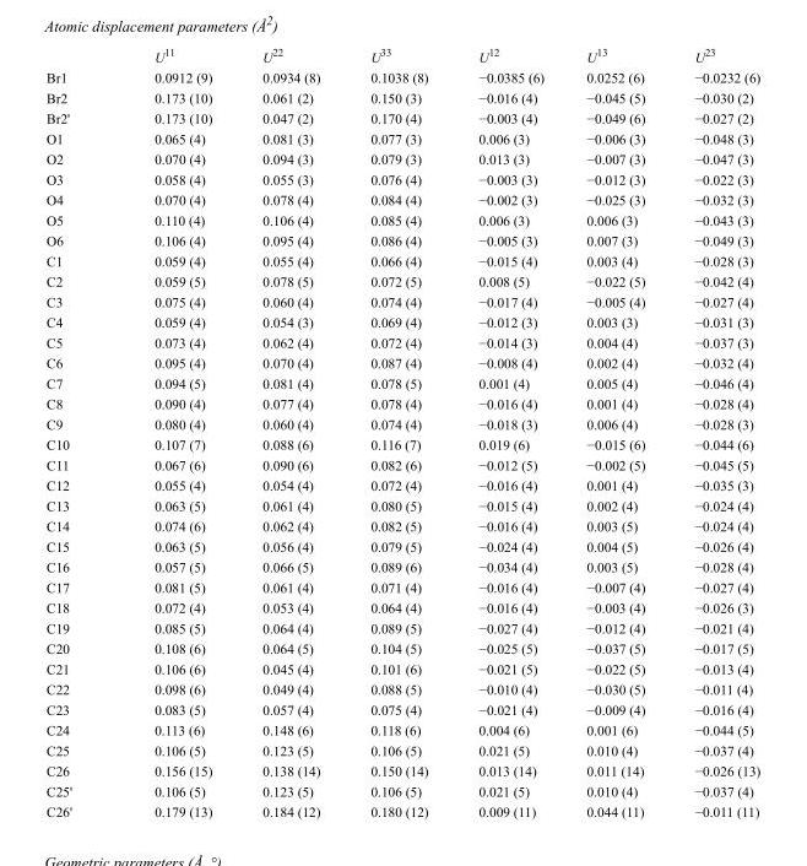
<table><thead><tr><td></td><td>U<sup>11</sup></td><td>U<sup>22</sup></td><td>U<sup>33</sup></td><td>U<sup>12</sup></td><td>U<sup>13</sup></td><td>U<sup>23</sup></td></tr></thead><tbody><tr><td>Br1</td><td>0.0912 (9)</td><td>0.0934 (8)</td><td>0.1038 (8)</td><td>−0.0385 (6)</td><td>0.0252 (6)</td><td>−0.0232 (6)</td></tr><tr><td>Br2</td><td>0.173 (10)</td><td>0.061 (2)</td><td>0.150 (3)</td><td>−0.016 (4)</td><td>−0.045 (5)</td><td>−0.030 (2)</td></tr><tr><td>Br2&#x27;</td><td>0.173 (10)</td><td>0.047 (2)</td><td>0.170 (4)</td><td>−0.003 (4)</td><td>−0.049 (6)</td><td>−0.027 (2)</td></tr><tr><td>O1</td><td>0.065 (4)</td><td>0.081 (3)</td><td>0.077 (3)</td><td>0.006 (3)</td><td>−0.006 (3)</td><td>−0.048 (3)</td></tr><tr><td>O2</td><td>0.070 (4)</td><td>0.094 (3)</td><td>0.079 (3)</td><td>0.013 (3)</td><td>−0.007 (3)</td><td>−0.047 (3)</td></tr><tr><td>O3</td><td>0.058 (4)</td><td>0.055 (3)</td><td>0.076 (4)</td><td>−0.003 (3)</td><td>−0.012 (3)</td><td>−0.022 (3)</td></tr><tr><td>O4</td><td>0.070 (4)</td><td>0.078 (4)</td><td>0.084 (4)</td><td>−0.002 (3)</td><td>−0.025 (3)</td><td>−0.032 (3)</td></tr><tr><td>O5</td><td>0.110 (4)</td><td>0.106 (4)</td><td>0.085 (4)</td><td>0.006 (3)</td><td>0.006 (3)</td><td>−0.043 (3)</td></tr><tr><td>O6</td><td>0.106 (4)</td><td>0.095 (4)</td><td>0.086 (4)</td><td>−0.005 (3)</td><td>0.007 (3)</td><td>−0.049 (3)</td></tr><tr><td>C1</td><td>0.059 (4)</td><td>0.055 (4)</td><td>0.066 (4)</td><td>−0.015 (4)</td><td>0.003 (4)</td><td>−0.028 (3)</td></tr><tr><td>C2</td><td>0.059 (5)</td><td>0.078 (5)</td><td>0.072 (5)</td><td>0.008 (5)</td><td>−0.022 (5)</td><td>−0.042 (4)</td></tr><tr><td>C3</td><td>0.075 (4)</td><td>0.060 (4)</td><td>0.074 (4)</td><td>−0.017 (4)</td><td>−0.005 (4)</td><td>−0.027 (4)</td></tr><tr><td>C4</td><td>0.059 (4)</td><td>0.054 (3)</td><td>0.069 (4)</td><td>−0.012 (3)</td><td>0.003 (3)</td><td>−0.031 (3)</td></tr><tr><td>C5</td><td>0.073 (4)</td><td>0.062 (4)</td><td>0.072 (4)</td><td>−0.014 (3)</td><td>0.004 (4)</td><td>−0.037 (3)</td></tr><tr><td>C6</td><td>0.095 (4)</td><td>0.070 (4)</td><td>0.087 (4)</td><td>−0.008 (4)</td><td>0.002 (4)</td><td>−0.032 (4)</td></tr><tr><td>C7</td><td>0.094 (5)</td><td>0.081 (4)</td><td>0.078 (5)</td><td>0.001 (4)</td><td>0.005 (4)</td><td>−0.046 (4)</td></tr><tr><td>C8</td><td>0.090 (4)</td><td>0.077 (4)</td><td>0.078 (4)</td><td>−0.016 (4)</td><td>0.001 (4)</td><td>−0.028 (4)</td></tr><tr><td>C9</td><td>0.080 (4)</td><td>0.060 (4)</td><td>0.074 (4)</td><td>−0.018 (3)</td><td>0.006 (4)</td><td>−0.028 (3)</td></tr><tr><td>C10</td><td>0.107 (7)</td><td>0.088 (6)</td><td>0.116 (7)</td><td>0.019 (6)</td><td>−0.015 (6)</td><td>−0.044 (6)</td></tr><tr><td>C11</td><td>0.067 (6)</td><td>0.090 (6)</td><td>0.082 (6)</td><td>−0.012 (5)</td><td>−0.002 (5)</td><td>−0.045 (5)</td></tr><tr><td>C12</td><td>0.055 (4)</td><td>0.054 (4)</td><td>0.072 (4)</td><td>−0.016 (4)</td><td>0.001 (4)</td><td>−0.035 (3)</td></tr><tr><td>C13</td><td>0.063 (5)</td><td>0.061 (4)</td><td>0.080 (5)</td><td>−0.015 (4)</td><td>0.002 (4)</td><td>−0.024 (4)</td></tr><tr><td>C14</td><td>0.074 (6)</td><td>0.062 (4)</td><td>0.082 (5)</td><td>−0.016 (4)</td><td>0.003 (5)</td><td>−0.024 (4)</td></tr><tr><td>C15</td><td>0.063 (5)</td><td>0.056 (4)</td><td>0.079 (5)</td><td>−0.024 (4)</td><td>0.004 (5)</td><td>−0.026 (4)</td></tr><tr><td>C16</td><td>0.057 (5)</td><td>0.066 (5)</td><td>0.089 (6)</td><td>−0.034 (4)</td><td>0.003 (5)</td><td>−0.028 (4)</td></tr><tr><td>C17</td><td>0.081 (5)</td><td>0.061 (4)</td><td>0.071 (4)</td><td>−0.016 (4)</td><td>−0.007 (4)</td><td>−0.027 (4)</td></tr><tr><td>C18</td><td>0.072 (4)</td><td>0.053 (4)</td><td>0.064 (4)</td><td>−0.016 (4)</td><td>−0.003 (4)</td><td>−0.026 (3)</td></tr><tr><td>C19</td><td>0.085 (5)</td><td>0.064 (4)</td><td>0.089 (5)</td><td>−0.027 (4)</td><td>−0.012 (4)</td><td>−0.021 (4)</td></tr><tr><td>C20</td><td>0.108 (6)</td><td>0.064 (5)</td><td>0.104 (5)</td><td>−0.025 (5)</td><td>−0.037 (5)</td><td>−0.017 (5)</td></tr><tr><td>C21</td><td>0.106 (6)</td><td>0.045 (4)</td><td>0.101 (6)</td><td>−0.021 (5)</td><td>−0.022 (5)</td><td>−0.013 (4)</td></tr><tr><td>C22</td><td>0.098 (6)</td><td>0.049 (4)</td><td>0.088 (5)</td><td>−0.010 (4)</td><td>−0.030 (5)</td><td>−0.011 (4)</td></tr><tr><td>C23</td><td>0.083 (5)</td><td>0.057 (4)</td><td>0.075 (4)</td><td>−0.021 (4)</td><td>−0.009 (4)</td><td>−0.016 (4)</td></tr><tr><td>C24</td><td>0.113 (6)</td><td>0.148 (6)</td><td>0.118 (6)</td><td>0.004 (6)</td><td>0.001 (6)</td><td>−0.044 (5)</td></tr><tr><td>C25</td><td>0.106 (5)</td><td>0.123 (5)</td><td>0.106 (5)</td><td>0.021 (5)</td><td>0.010 (4)</td><td>−0.037 (4)</td></tr><tr><td>C26</td><td>0.156 (15)</td><td>0.138 (14)</td><td>0.150 (14)</td><td>0.013 (14)</td><td>0.011 (14)</td><td>−0.026 (13)</td></tr><tr><td>C25&#x27;</td><td>0.106 (5)</td><td>0.123 (5)</td><td>0.106 (5)</td><td>0.021 (5)</td><td>0.010 (4)</td><td>−0.037 (4)</td></tr><tr><td>C26&#x27;</td><td>0.179 (13)</td><td>0.184 (12)</td><td>0.180 (12)</td><td>0.009 (11)</td><td>0.044 (11)</td><td>−0.011 (11)</td></tr></tbody></table>